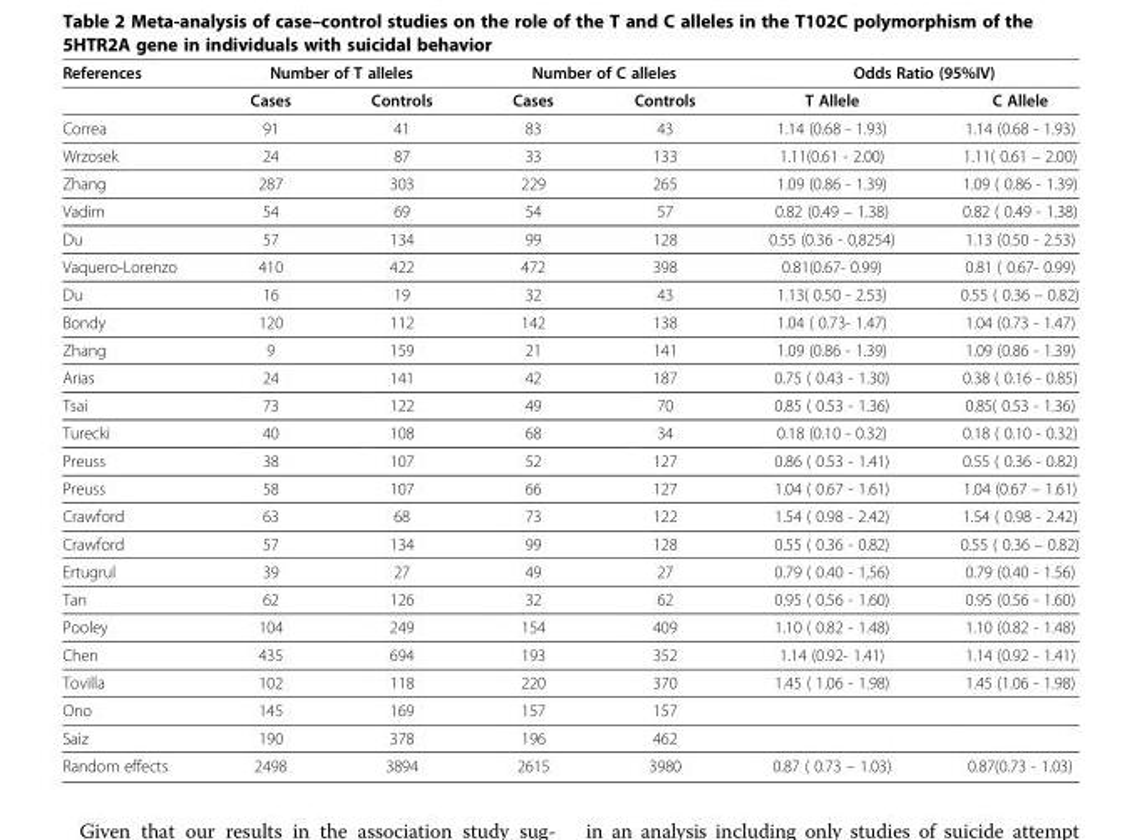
<table><thead><tr><td rowspan="2">References</td><td colspan="2">Number of T alleles</td><td colspan="2">Number of C alleles</td><td colspan="2">Odds Ratio (95%IV)</td></tr><tr><td>Cases</td><td>Controls</td><td>Cases</td><td>Controls</td><td>T Allele</td><td>C Allele</td></tr></thead><tbody><tr><td>Correa</td><td>91</td><td>41</td><td>83</td><td>43</td><td>1.14 (0.68 - 1.93)</td><td>1.14 (0.68 - 1.93)</td></tr><tr><td>Wrzosek</td><td>24</td><td>87</td><td>33</td><td>133</td><td>1.11(0.61 - 2.00)</td><td>1.11( 0.61 – 2.00)</td></tr><tr><td>Zhang</td><td>287</td><td>303</td><td>229</td><td>265</td><td>1.09 (0.86 - 1.39)</td><td>1.09 ( 0.86 - 1.39)</td></tr><tr><td>Vadim</td><td>54</td><td>69</td><td>54</td><td>57</td><td>0.82 (0.49 – 1.38)</td><td>0.82 ( 0.49 - 1.38)</td></tr><tr><td>Du</td><td>57</td><td>134</td><td>99</td><td>128</td><td>0.55 (0.36 - 0,8254)</td><td>1.13 (0.50 - 2.53)</td></tr><tr><td>Vaquero-Lorenzo</td><td>410</td><td>422</td><td>472</td><td>398</td><td>0.81(0.67- 0.99)</td><td>0.81 ( 0.67- 0.99)</td></tr><tr><td>Du</td><td>16</td><td>19</td><td>32</td><td>43</td><td>1.13( 0.50 - 2.53)</td><td>0.55 ( 0.36 – 0.82)</td></tr><tr><td>Bondy</td><td>120</td><td>112</td><td>142</td><td>138</td><td>1.04 ( 0.73- 1.47)</td><td>1.04 (0.73 - 1.47)</td></tr><tr><td>Zhang</td><td>9</td><td>159</td><td>21</td><td>141</td><td>1.09 (0.86 - 1.39)</td><td>1.09 (0.86 - 1.39)</td></tr><tr><td>Arias</td><td>24</td><td>141</td><td>42</td><td>187</td><td>0.75 ( 0.43 - 1.30)</td><td>0.38 ( 0.16 - 0.85)</td></tr><tr><td>Tsai</td><td>73</td><td>122</td><td>49</td><td>70</td><td>0.85 ( 0.53 - 1.36)</td><td>0.85( 0.53 - 1.36)</td></tr><tr><td>Turecki</td><td>40</td><td>108</td><td>68</td><td>34</td><td>0.18 (0.10 - 0.32)</td><td>0.18 ( 0.10 - 0.32)</td></tr><tr><td>Preuss</td><td>38</td><td>107</td><td>52</td><td>127</td><td>0.86 ( 0.53 - 1.41)</td><td>0.55 ( 0.36 - 0.82)</td></tr><tr><td>Preuss</td><td>58</td><td>107</td><td>66</td><td>127</td><td>1.04 ( 0.67 - 1.61)</td><td>1.04 (0.67 – 1.61)</td></tr><tr><td>Crawford</td><td>63</td><td>68</td><td>73</td><td>122</td><td>1.54 ( 0.98 - 2.42)</td><td>1.54 ( 0.98 - 2.42)</td></tr><tr><td>Crawford</td><td>57</td><td>134</td><td>99</td><td>128</td><td>0.55 ( 0.36 - 0.82)</td><td>0.55 ( 0.36 – 0.82)</td></tr><tr><td>Ertugrul</td><td>39</td><td>27</td><td>49</td><td>27</td><td>0.79 ( 0.40 - 1,56)</td><td>0.79 (0.40 - 1.56)</td></tr><tr><td>Tan</td><td>62</td><td>126</td><td>32</td><td>62</td><td>0.95 ( 0.56 - 1.60)</td><td>0.95 (0.56 - 1.60)</td></tr><tr><td>Pooley</td><td>104</td><td>249</td><td>154</td><td>409</td><td>1.10 ( 0.82 - 1.48)</td><td>1.10 (0.82 - 1.48)</td></tr><tr><td>Chen</td><td>435</td><td>694</td><td>193</td><td>352</td><td>1.14 (0.92- 1.41)</td><td>1.14 (0.92 - 1.41)</td></tr><tr><td>Tovilla</td><td>102</td><td>118</td><td>220</td><td>370</td><td>1.45 ( 1.06 - 1.98)</td><td>1.45 (1.06 - 1.98)</td></tr><tr><td>Ono</td><td>145</td><td>169</td><td>157</td><td>157</td><td></td><td></td></tr><tr><td>Saiz</td><td>190</td><td>378</td><td>196</td><td>462</td><td></td><td></td></tr><tr><td>Random effects</td><td>2498</td><td>3894</td><td>2615</td><td>3980</td><td>0.87 ( 0.73 – 1.03)</td><td>0.87(0.73 - 1.03)</td></tr></tbody></table>